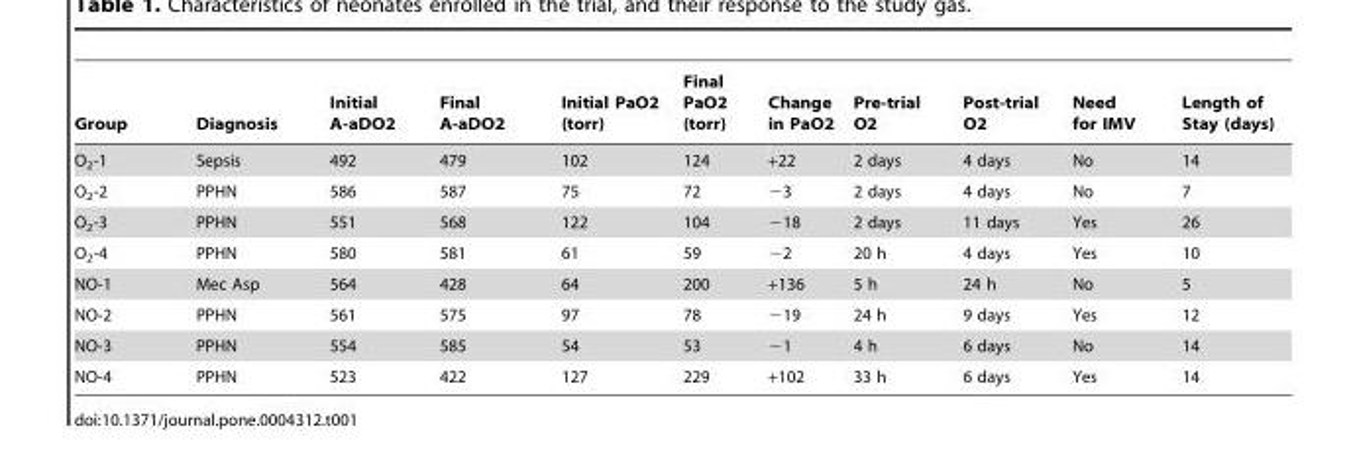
<table><thead><tr><td>Group</td><td>Diagnosis</td><td>Initial A-aDO2</td><td>Final A-aDO2</td><td>Initial PaO2 (torr)</td><td>Final PaO2 (torr)</td><td>Change in PaO2</td><td>Pre-trial O2</td><td>Post-trial O2</td><td>Need for IMV</td><td>Length of Stay (days)</td></tr></thead><tbody><tr><td>O<sub>2</sub>-1</td><td>Sepsis</td><td>492</td><td>479</td><td>102</td><td>124</td><td>+22</td><td>2 days</td><td>4 days</td><td>No</td><td>14</td></tr><tr><td>O<sub>2</sub>-2</td><td>PPHN</td><td>586</td><td>587</td><td>75</td><td>72</td><td>−3</td><td>2 days</td><td>4 days</td><td>No</td><td>7</td></tr><tr><td>O<sub>2</sub>-3</td><td>PPHN</td><td>551</td><td>568</td><td>122</td><td>104</td><td>−18</td><td>2 days</td><td>11 days</td><td>Yes</td><td>26</td></tr><tr><td>O<sub>2</sub>-4</td><td>PPHN</td><td>580</td><td>581</td><td>61</td><td>59</td><td>−2</td><td>20 h</td><td>4 days</td><td>Yes</td><td>10</td></tr><tr><td>NO-1</td><td>Mec Asp</td><td>564</td><td>428</td><td>64</td><td>200</td><td>+136</td><td>5 h</td><td>24 h</td><td>No</td><td>5</td></tr><tr><td>NO-2</td><td>PPHN</td><td>561</td><td>575</td><td>97</td><td>78</td><td>−19</td><td>24 h</td><td>9 days</td><td>Yes</td><td>12</td></tr><tr><td>NO-3</td><td>PPHN</td><td>554</td><td>585</td><td>54</td><td>53</td><td>−1</td><td>4 h</td><td>6 days</td><td>No</td><td>14</td></tr><tr><td>NO-4</td><td>PPHN</td><td>523</td><td>422</td><td>127</td><td>229</td><td>+102</td><td>33 h</td><td>6 days</td><td>Yes</td><td>14</td></tr></tbody></table>